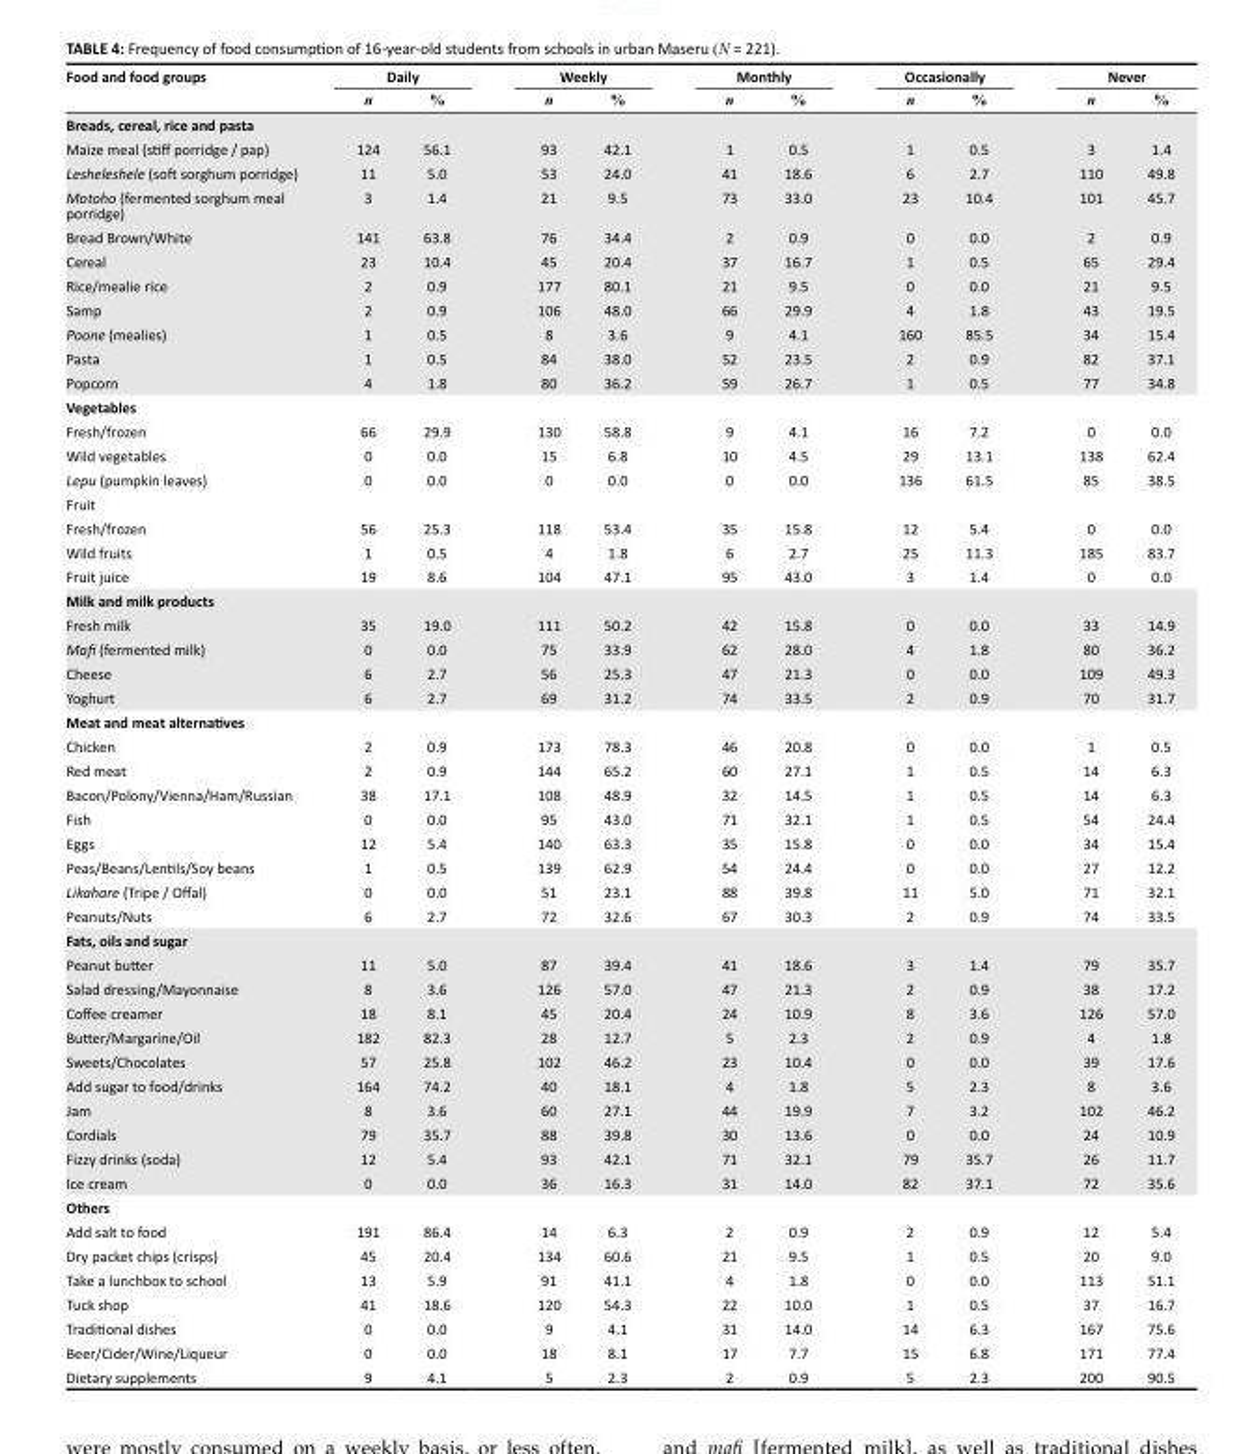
<table><thead><tr><td rowspan="2">Food and food groups</td><td colspan="2">Daily</td><td colspan="2">Weekly</td><td colspan="2">Monthly</td><td colspan="2">Occasionally</td><td colspan="2">Never</td></tr><tr><td>n</td><td>%</td><td>n</td><td>%</td><td>n</td><td>%</td><td>n</td><td>%</td><td>n</td><td>%</td></tr></thead><tbody><tr><td colspan="11">Breads, cereal, rice and pasta</td></tr><tr><td>Maize meal (stiff porridge / pap)</td><td>124</td><td>56.1</td><td>93</td><td>42.1</td><td>1</td><td>0.5</td><td>1</td><td>0.5</td><td>3</td><td>1.4</td></tr><tr><td>Lesheleshele (soft sorghum porridge)</td><td>11</td><td>5.0</td><td>53</td><td>24.0</td><td>41</td><td>18.6</td><td>6</td><td>2.7</td><td>110</td><td>49.8</td></tr><tr><td>Motoho (fermented sorghum meal porridge)</td><td>3</td><td>1.4</td><td>21</td><td>9.5</td><td>73</td><td>33.0</td><td>23</td><td>10.4</td><td>101</td><td>45.7</td></tr><tr><td>Bread Brown/White</td><td>141</td><td>63.8</td><td>76</td><td>34.4</td><td>2</td><td>0.9</td><td>0</td><td>0.0</td><td>2</td><td>0.9</td></tr><tr><td>Cereal</td><td>23</td><td>10.4</td><td>45</td><td>20.4</td><td>37</td><td>16.7</td><td>1</td><td>0.5</td><td>65</td><td>29.4</td></tr><tr><td>Rice/mealie rice</td><td>2</td><td>0.9</td><td>177</td><td>80.1</td><td>21</td><td>9.5</td><td>0</td><td>0.0</td><td>21</td><td>9.5</td></tr><tr><td>Samp</td><td>2</td><td>0.9</td><td>106</td><td>48.0</td><td>66</td><td>29.9</td><td>4</td><td>1.8</td><td>43</td><td>19.5</td></tr><tr><td>Poone (mealies)</td><td>1</td><td>0.5</td><td>8</td><td>3.6</td><td>9</td><td>4.1</td><td>160</td><td>85.5</td><td>34</td><td>15.4</td></tr><tr><td>Pasta</td><td>1</td><td>0.5</td><td>84</td><td>38.0</td><td>52</td><td>23.5</td><td>2</td><td>0.9</td><td>82</td><td>37.1</td></tr><tr><td>Popcorn</td><td>4</td><td>1.8</td><td>80</td><td>36.2</td><td>59</td><td>26.7</td><td>1</td><td>0.5</td><td>77</td><td>34.8</td></tr><tr><td colspan="11">Vegetables</td></tr><tr><td>Fresh/frozen</td><td>66</td><td>29.9</td><td>130</td><td>58.8</td><td>9</td><td>4.1</td><td>16</td><td>7.2</td><td>0</td><td>0.0</td></tr><tr><td>Wild vegetables</td><td>0</td><td>0.0</td><td>15</td><td>6.8</td><td>10</td><td>4.5</td><td>29</td><td>13.1</td><td>138</td><td>62.4</td></tr><tr><td>Lepu (pumpkin leaves)</td><td>0</td><td>0.0</td><td>0</td><td>0.0</td><td>0</td><td>0.0</td><td>136</td><td>61.5</td><td>85</td><td>38.5</td></tr><tr><td colspan="11">Fruit</td></tr><tr><td>Fresh/frozen</td><td>56</td><td>25.3</td><td>118</td><td>53.4</td><td>35</td><td>15.8</td><td>12</td><td>5.4</td><td>0</td><td>0.0</td></tr><tr><td>Wild fruits</td><td>1</td><td>0.5</td><td>4</td><td>1.8</td><td>6</td><td>2.7</td><td>25</td><td>11.3</td><td>185</td><td>83.7</td></tr><tr><td>Fruit juice</td><td>19</td><td>8.6</td><td>104</td><td>47.1</td><td>95</td><td>43.0</td><td>3</td><td>1.4</td><td>0</td><td>0.0</td></tr><tr><td colspan="11">Milk and milk products</td></tr><tr><td>Fresh milk</td><td>35</td><td>19.0</td><td>111</td><td>50.2</td><td>42</td><td>15.8</td><td>0</td><td>0.0</td><td>33</td><td>14.9</td></tr><tr><td>Mafi (fermented milk)</td><td>0</td><td>0.0</td><td>75</td><td>33.9</td><td>62</td><td>28.0</td><td>4</td><td>1.8</td><td>80</td><td>36.2</td></tr><tr><td>Cheese</td><td>6</td><td>2.7</td><td>56</td><td>25.3</td><td>47</td><td>21.3</td><td>0</td><td>0.0</td><td>109</td><td>49.3</td></tr><tr><td>Yoghurt</td><td>6</td><td>2.7</td><td>69</td><td>31.2</td><td>74</td><td>33.5</td><td>2</td><td>0.9</td><td>70</td><td>31.7</td></tr><tr><td colspan="11">Meat and meat alternatives</td></tr><tr><td>Chicken</td><td>2</td><td>0.9</td><td>173</td><td>78.3</td><td>46</td><td>20.8</td><td>0</td><td>0.0</td><td>1</td><td>0.5</td></tr><tr><td>Red meat</td><td>2</td><td>0.9</td><td>144</td><td>65.2</td><td>60</td><td>27.1</td><td>1</td><td>0.5</td><td>14</td><td>6.3</td></tr><tr><td>Bacon/Polony/Vienna/Ham/Russian</td><td>38</td><td>17.1</td><td>108</td><td>48.9</td><td>32</td><td>14.5</td><td>1</td><td>0.5</td><td>14</td><td>6.3</td></tr><tr><td>Fish</td><td>0</td><td>0.0</td><td>95</td><td>43.0</td><td>71</td><td>32.1</td><td>1</td><td>0.5</td><td>54</td><td>24.4</td></tr><tr><td>Eggs</td><td>12</td><td>5.4</td><td>140</td><td>63.3</td><td>35</td><td>15.8</td><td>0</td><td>0.0</td><td>34</td><td>15.4</td></tr><tr><td>Peas/Beans/Lentils/Soy beans</td><td>1</td><td>0.5</td><td>139</td><td>62.9</td><td>54</td><td>24.4</td><td>0</td><td>0.0</td><td>27</td><td>12.2</td></tr><tr><td>Likahare (Tripe / Offal)</td><td>0</td><td>0.0</td><td>51</td><td>23.1</td><td>88</td><td>39.8</td><td>11</td><td>5.0</td><td>71</td><td>32.1</td></tr><tr><td>Peanuts/Nuts</td><td>6</td><td>2.7</td><td>72</td><td>32.6</td><td>67</td><td>30.3</td><td>2</td><td>0.9</td><td>74</td><td>33.5</td></tr><tr><td colspan="11">Fats, oils and sugar</td></tr><tr><td>Peanut butter</td><td>11</td><td>5.0</td><td>87</td><td>39.4</td><td>41</td><td>18.6</td><td>3</td><td>1.4</td><td>79</td><td>35.7</td></tr><tr><td>Salad dressing/Mayonnaise</td><td>8</td><td>3.6</td><td>126</td><td>57.0</td><td>47</td><td>21.3</td><td>2</td><td>0.9</td><td>38</td><td>17.2</td></tr><tr><td>Coffee creamer</td><td>18</td><td>8.1</td><td>45</td><td>20.4</td><td>24</td><td>10.9</td><td>8</td><td>3.6</td><td>126</td><td>57.0</td></tr><tr><td>Butter/Margarine/Oil</td><td>182</td><td>82.3</td><td>28</td><td>12.7</td><td>5</td><td>2.3</td><td>2</td><td>0.9</td><td>4</td><td>1.8</td></tr><tr><td>Sweets/Chocolates</td><td>57</td><td>25.8</td><td>102</td><td>46.2</td><td>23</td><td>10.4</td><td>0</td><td>0.0</td><td>39</td><td>17.6</td></tr><tr><td>Add sugar to food/drinks</td><td>164</td><td>74.2</td><td>40</td><td>18.1</td><td>4</td><td>1.8</td><td>5</td><td>2.3</td><td>8</td><td>3.6</td></tr><tr><td>Jam</td><td>8</td><td>3.6</td><td>60</td><td>27.1</td><td>44</td><td>19.9</td><td>7</td><td>3.2</td><td>102</td><td>46.2</td></tr><tr><td>Cordials</td><td>79</td><td>35.7</td><td>88</td><td>39.8</td><td>30</td><td>13.6</td><td>0</td><td>0.0</td><td>24</td><td>10.9</td></tr><tr><td>Fizzy drinks (soda)</td><td>12</td><td>5.4</td><td>93</td><td>42.1</td><td>71</td><td>32.1</td><td>79</td><td>35.7</td><td>26</td><td>11.7</td></tr><tr><td>Ice cream</td><td>0</td><td>0.0</td><td>36</td><td>16.3</td><td>31</td><td>14.0</td><td>82</td><td>37.1</td><td>72</td><td>35.6</td></tr><tr><td colspan="11">Others</td></tr><tr><td>Add salt to food</td><td>191</td><td>86.4</td><td>14</td><td>6.3</td><td>2</td><td>0.9</td><td>2</td><td>0.9</td><td>12</td><td>5.4</td></tr><tr><td>Dry packet chips (crisps)</td><td>45</td><td>20.4</td><td>134</td><td>60.6</td><td>21</td><td>9.5</td><td>1</td><td>0.5</td><td>20</td><td>9.0</td></tr><tr><td>Take a lunchbox to school</td><td>13</td><td>5.9</td><td>91</td><td>41.1</td><td>4</td><td>1.8</td><td>0</td><td>0.0</td><td>113</td><td>51.1</td></tr><tr><td>Tuck shop</td><td>41</td><td>18.6</td><td>120</td><td>54.3</td><td>22</td><td>10.0</td><td>1</td><td>0.5</td><td>37</td><td>16.7</td></tr><tr><td>Traditional dishes</td><td>0</td><td>0.0</td><td>9</td><td>4.1</td><td>31</td><td>14.0</td><td>14</td><td>6.3</td><td>167</td><td>75.6</td></tr><tr><td>Beer/Cider/Wine/Liqueur</td><td>0</td><td>0.0</td><td>18</td><td>8.1</td><td>17</td><td>7.7</td><td>15</td><td>6.8</td><td>171</td><td>77.4</td></tr><tr><td>Dietary supplements</td><td>9</td><td>4.1</td><td>5</td><td>2.3</td><td>2</td><td>0.9</td><td>5</td><td>2.3</td><td>200</td><td>90.5</td></tr></tbody></table>